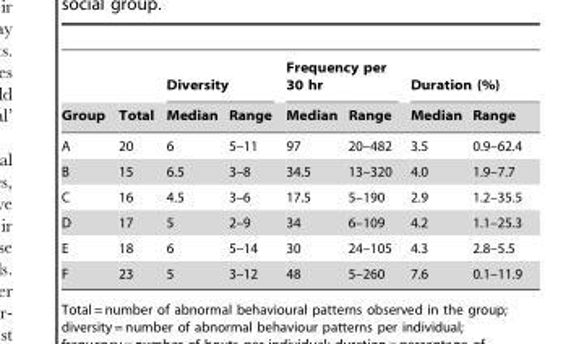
<table><thead><tr><td rowspan="2">Group</td><td rowspan="2">Total</td><td colspan="2">Diversity</td><td colspan="2">Frequency per 30 hr</td><td colspan="2">Duration (%)</td></tr><tr><td>Median</td><td>Range</td><td>Median</td><td>Range</td><td>Median</td><td>Range</td></tr></thead><tbody><tr><td>A</td><td>20</td><td>6</td><td>5–11</td><td>97</td><td>20–482</td><td>3.5</td><td>0.9–62.4</td></tr><tr><td>B</td><td>15</td><td>6.5</td><td>3–8</td><td>34.5</td><td>13–320</td><td>4.0</td><td>1.9–7.7</td></tr><tr><td>C</td><td>16</td><td>4.5</td><td>3–6</td><td>17.5</td><td>5–190</td><td>2.9</td><td>1.2–35.5</td></tr><tr><td>D</td><td>17</td><td>5</td><td>2–9</td><td>34</td><td>6–109</td><td>4.2</td><td>1.1–25.3</td></tr><tr><td>E</td><td>18</td><td>6</td><td>5–14</td><td>30</td><td>24–105</td><td>4.3</td><td>2.8–5.5</td></tr><tr><td>F</td><td>23</td><td>5</td><td>3–12</td><td>48</td><td>5–260</td><td>7.6</td><td>0.1–11.9</td></tr></tbody></table>